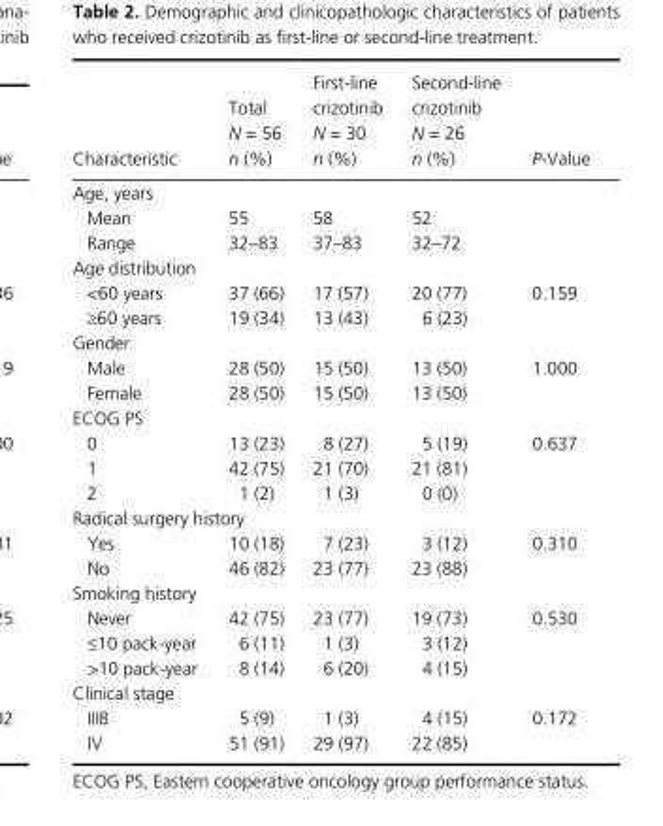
<table><thead><tr><td>Characteristic</td><td>Total N = 56 n (%)</td><td>First- line crizotinib N = 30 n (%)</td><td>Second- line crizotinib N = 26 n (%)</td><td>P- Value</td></tr></thead><tbody><tr><td colspan="5">Age, years</td></tr><tr><td>Mean</td><td>55</td><td>58</td><td>52</td><td rowspan="2"></td></tr><tr><td>Range</td><td>32–83</td><td>37–83</td><td>32–72</td></tr><tr><td colspan="5">Age distribution</td></tr><tr><td>&lt;60 years</td><td>37 (66)</td><td>17 (57)</td><td>20 (77)</td><td rowspan="2">0.159</td></tr><tr><td>≥60 years</td><td>19 (34)</td><td>13 (43)</td><td>6 (23)</td></tr><tr><td colspan="5">Gender</td></tr><tr><td>Male</td><td>28 (50)</td><td>15 (50)</td><td>13 (50)</td><td rowspan="2">1.000</td></tr><tr><td>Female</td><td>28 (50)</td><td>15 (50)</td><td>13 (50)</td></tr><tr><td colspan="5">ECOG PS</td></tr><tr><td>0</td><td>13 (23)</td><td>8 (27)</td><td>5 (19)</td><td rowspan="3">0.637</td></tr><tr><td>1</td><td>42 (75)</td><td>21 (70)</td><td>21 (81)</td></tr><tr><td>2</td><td>1 (2)</td><td>1 (3)</td><td>0 (0)</td></tr><tr><td colspan="5">Radical surgery history</td></tr><tr><td>Yes</td><td>10 (18)</td><td>7 (23)</td><td>3 (12)</td><td rowspan="2">0.310</td></tr><tr><td>No</td><td>46 (82)</td><td>23 (77)</td><td>23 (88)</td></tr><tr><td colspan="5">Smoking history</td></tr><tr><td>Never</td><td>42 (75)</td><td>23 (77)</td><td>19 (73)</td><td rowspan="3">0.530</td></tr><tr><td>≤10 pack- year</td><td>6 (11)</td><td>1 (3)</td><td>3 (12)</td></tr><tr><td>&gt;10 pack- year</td><td>8 (14)</td><td>6 (20)</td><td>4 (15)</td></tr><tr><td colspan="5">Clinical stage</td></tr><tr><td>IIIB</td><td>5 (9)</td><td>1 (3)</td><td>4 (15)</td><td rowspan="2">0.172</td></tr><tr><td>IV</td><td>51 (91)</td><td>29 (97)</td><td>22 (85)</td></tr></tbody></table>